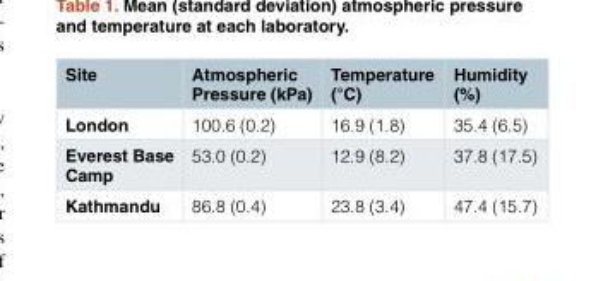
<table><thead><tr><td>Site</td><td>Atmospheric Pressure (kPa)</td><td>Temperature (°C)</td><td>Humidity (%)</td></tr></thead><tbody><tr><td>London</td><td>100.6 (0.2)</td><td>16.9 (1.8)</td><td>35.4 (6.5)</td></tr><tr><td>Everest Base Camp</td><td>53.0 (0.2)</td><td>12.9 (8.2)</td><td>37.8 (17.5)</td></tr><tr><td>Kathmandu</td><td>86.8 (0.4)</td><td>23.8 (3.4)</td><td>47.4 (15.7)</td></tr></tbody></table>